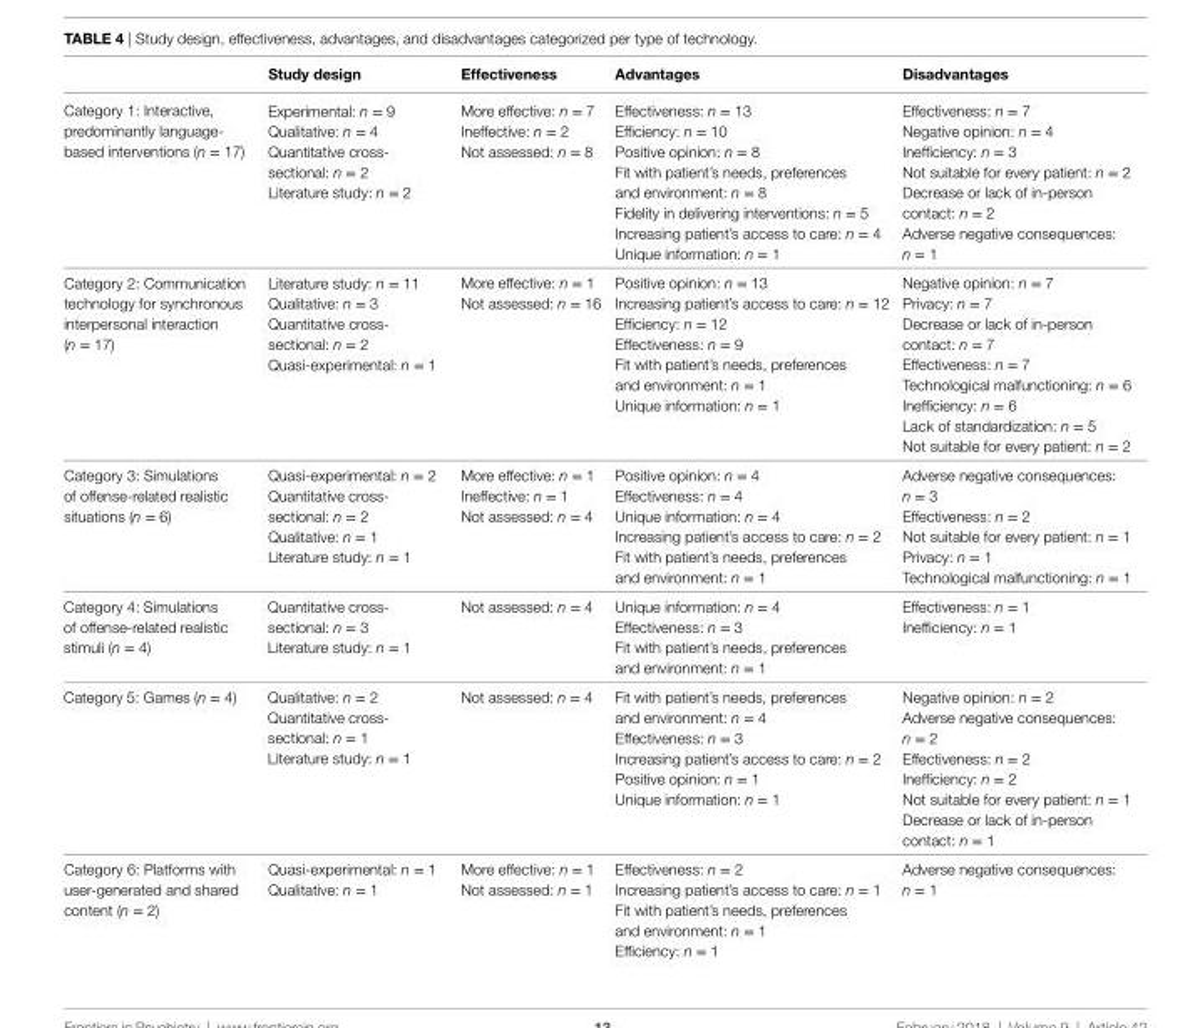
<table><thead><tr><td></td><td>Study design</td><td>effectiveness</td><td>advantages</td><td>Disadvantages</td></tr></thead><tbody><tr><td>Category 1: Interactive, predominantly language- based interventions (n = 17)</td><td>Experimental: n = 9 Qualitative: n = 4 Quantitative cross- sectional: n = 2 Literature study: n = 2</td><td>More effective: n = 7 Ineffective: n = 2 Not assessed: n = 8</td><td>Effectiveness: n = 13 Efficiency: n = 10 Positive opinion: n = 8 Fit with patient’s needs, preferences and environment: n = 8 Fidelity in delivering interventions: n = 5 Increasing patient’s access to care: n = 4 Unique information: n = 1</td><td>Effectiveness: n = 7 Negative opinion: n = 4 Inefficiency: n = 3 Not suitable for every patient: n = 2 Decrease or lack of in-person contact: n = 2 Adverse negative consequences: n = 1</td></tr><tr><td>Category 2: Communication technology for synchronous interpersonal interaction (n = 17)</td><td>Literature study: n = 11 Qualitative: n = 3 Quantitative cross- sectional: n = 2 Quasi-experimental: n = 1</td><td>More effective: n = 1 Not assessed: n = 16</td><td>Positive opinion: n = 13 Increasing patient’s access to care: n = 12 Efficiency: n = 12 Effectiveness: n = 9 Fit with patient’s needs, preferences and environment: n = 1 Unique information: n = 1</td><td>Negative opinion: n = 7 Privacy: n = 7 Decrease or lack of in-person contact: n = 7 Effectiveness: n = 7 Technological malfunctioning: n = 6 Inefficiency: n = 6 Lack of standardization: n = 5 Not suitable for every patient: n = 2</td></tr><tr><td>Category 3: Simulations of offense-related realistic situations (n = 6)</td><td>Quasi-experimental: n = 2 Quantitative cross- sectional: n = 2 Qualitative: n = 1 Literature study: n = 1</td><td>More effective: n = 1 Ineffective: n = 1 Not assessed: n = 4</td><td>Positive opinion: n = 4 Effectiveness: n = 4 Unique information: n = 4 Increasing patient’s access to care: n = 2 Fit with patient’s needs, preferences and environment: n = 1</td><td>Adverse negative consequences: n = 3 Effectiveness: n = 2 Not suitable for every patient: n = 1 Privacy: n = 1 Technological malfunctioning: n = 1</td></tr><tr><td>Category 4: Simulations of offense-related realistic stimuli (n = 4)</td><td>Quantitative cross- sectional: n = 3 Literature study: n = 1</td><td>Not assessed: n = 4</td><td>Unique information: n = 4 Effectiveness: n = 3 Fit with patient’s needs, preferences and environment: n = 1</td><td>Effectiveness: n = 1 Inefficiency: n = 1</td></tr><tr><td>Category 5: Games (n = 4)</td><td>Qualitative: n = 2 Quantitative cross- sectional: n = 1 Literature study: n = 1</td><td>Not assessed: n = 4</td><td>Fit with patient’s needs, preferences and environment: n = 4 Effectiveness: n = 3 Increasing patient’s access to care: n = 2 Positive opinion: n = 1 Unique information: n = 1</td><td>Negative opinion: n = 2 Adverse negative consequences: n = 2 Effectiveness: n = 2 Inefficiency: n = 2 Not suitable for every patient: n = 1 Decrease or lack of in-person contact: n = 1</td></tr><tr><td>Category 6: Platforms with user-generated and shared content (n = 2)</td><td>Quasi-experimental: n = 1 Qualitative: n = 1</td><td>More effective: n = 1 Not assessed: n = 1</td><td>Effectiveness: n = 2 Increasing patient’s access to care: n = 1 Fit with patient’s needs, preferences and environment: n = 1 Efficiency: n = 1</td><td>Adverse negative consequences: n = 1</td></tr></tbody></table>